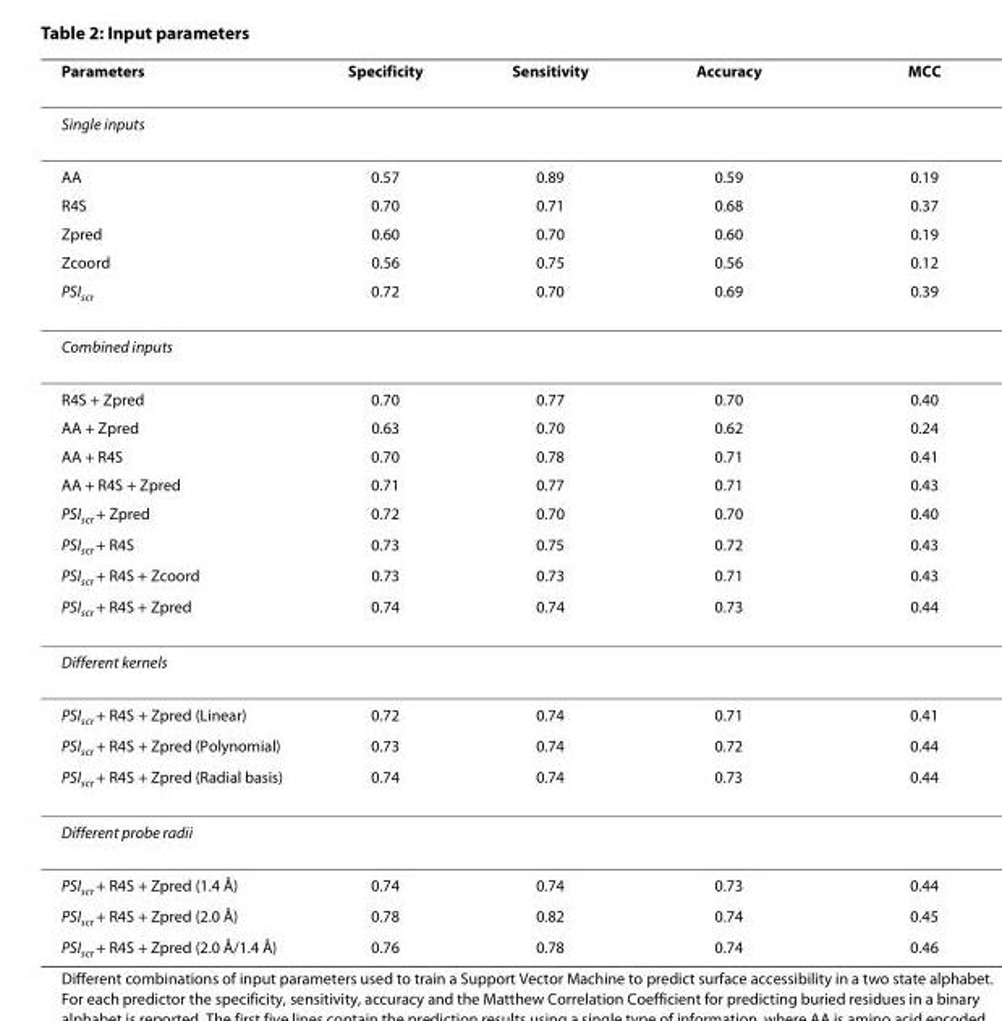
<table><thead><tr><td>Parameters</td><td>Specificity</td><td>Sensitivity</td><td>Accuracy</td><td>MCC</td></tr></thead><tbody><tr><td colspan="5">Single inputs</td></tr><tr><td>AA</td><td>0.57</td><td>0.89</td><td>0.59</td><td>0.19</td></tr><tr><td>R4S</td><td>0.70</td><td>0.71</td><td>0.68</td><td>0.37</td></tr><tr><td>Zpred</td><td>0.60</td><td>0.70</td><td>0.60</td><td>0.19</td></tr><tr><td>Zcoord</td><td>0.56</td><td>0.75</td><td>0.56</td><td>0.12</td></tr><tr><td>PSI<sub>scr</sub></td><td>0.72</td><td>0.70</td><td>0.69</td><td>0.39</td></tr><tr><td colspan="5">Combined inputs</td></tr><tr><td>R4S + Zpred</td><td>0.70</td><td>0.77</td><td>0.70</td><td>0.40</td></tr><tr><td>AA + Zpred</td><td>0.63</td><td>0.70</td><td>0.62</td><td>0.24</td></tr><tr><td>AA + R4S</td><td>0.70</td><td>0.78</td><td>0.71</td><td>0.41</td></tr><tr><td>AA + R4S + Zpred</td><td>0.71</td><td>0.77</td><td>0.71</td><td>0.43</td></tr><tr><td>PSI<sub>scr</sub> + Zpred</td><td>0.72</td><td>0.70</td><td>0.70</td><td>0.40</td></tr><tr><td>PSI<sub>scr</sub> + R4S</td><td>0.73</td><td>0.75</td><td>0.72</td><td>0.43</td></tr><tr><td>PSI<sub>scr</sub> + R4S + Zcoord</td><td>0.73</td><td>0.73</td><td>0.71</td><td>0.43</td></tr><tr><td>PSI<sub>scr</sub> + R4S + Zpred</td><td>0.74</td><td>0.74</td><td>0.73</td><td>0.44</td></tr><tr><td colspan="5">Different kernels</td></tr><tr><td>PSI<sub>scr</sub> + R4S + Zpred (Linear)</td><td>0.72</td><td>0.74</td><td>0.71</td><td>0.41</td></tr><tr><td>PSI<sub>scr</sub> + R4S + Zpred (Polynomial)</td><td>0.73</td><td>0.74</td><td>0.72</td><td>0.44</td></tr><tr><td>PSI<sub>scr</sub> + R4S + Zpred (Radial basis)</td><td>0.74</td><td>0.74</td><td>0.73</td><td>0.44</td></tr><tr><td colspan="5">Different probe radii</td></tr><tr><td>PSI<sub>scr</sub> + R4S + Zpred (1.4 Å)</td><td>0.74</td><td>0.74</td><td>0.73</td><td>0.44</td></tr><tr><td>PSI<sub>scr</sub> + R4S + Zpred (2.0 Å)</td><td>0.78</td><td>0.82</td><td>0.74</td><td>0.45</td></tr><tr><td>PSI<sub>scr</sub> + R4S + Zpred (2.0 Å/1.4 Å)</td><td>0.76</td><td>0.78</td><td>0.74</td><td>0.46</td></tr></tbody></table>